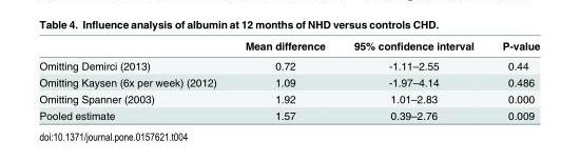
<table><thead><tr><td></td><td>Mean difference</td><td>95% confidence interval</td><td>P-value</td></tr></thead><tbody><tr><td>Omitting Demirci (2013)</td><td>0.72</td><td>-1.11–2.55</td><td>0.44</td></tr><tr><td>Omitting Kaysen (6x per week) (2012)</td><td>1.09</td><td>-1.97–4.14</td><td>0.486</td></tr><tr><td>Omitting Spanner (2003)</td><td>1.92</td><td>1.01–2.83</td><td>0.000</td></tr><tr><td>Pooled estimate</td><td>1.57</td><td>0.39–2.76</td><td>0.009</td></tr></tbody></table>